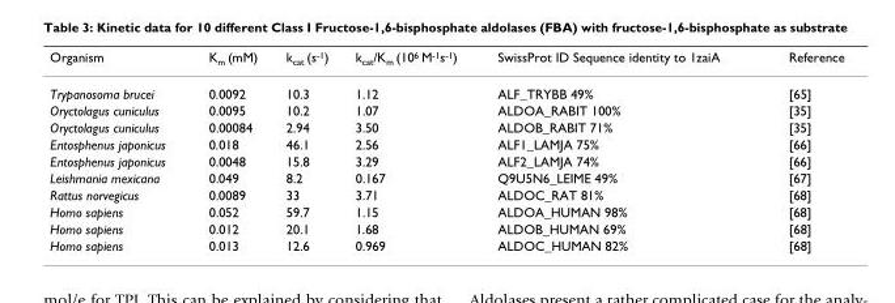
<table><thead><tr><td>Organism</td><td>K<sub>m</sub> (mM)</td><td>k<sub>cat</sub> (s<sup>-1</sup>)</td><td>k<sub>cat</sub>/K<sub>m</sub> (10<sup>6</sup> M<sup>-1</sup>s<sup>-1</sup>)</td><td>SwissProt ID Sequence identity to 1zaiA</td><td>Reference</td></tr></thead><tbody><tr><td>Trypanosoma brucei</td><td>0.0092</td><td>10.3</td><td>1.12</td><td>ALF_TRYBB 49%</td><td>[65]</td></tr><tr><td>Oryctolagus cuniculus</td><td>0.0095</td><td>10.2</td><td>1.07</td><td>ALDOA_RABIT 100%</td><td>[35]</td></tr><tr><td>Oryctolagus cuniculus</td><td>0.00084</td><td>2.94</td><td>3.50</td><td>ALDOB_RABIT 71%</td><td>[35]</td></tr><tr><td>Entosphenus japonicus</td><td>0.018</td><td>46.1</td><td>2.56</td><td>ALF1_LAMJA 75%</td><td>[66]</td></tr><tr><td>Entosphenus japonicus</td><td>0.0048</td><td>15.8</td><td>3.29</td><td>ALF2_LAMJA 74%</td><td>[66]</td></tr><tr><td>Leishmania mexicana</td><td>0.049</td><td>8.2</td><td>0.167</td><td>Q9U5N6_LEIME 49%</td><td>[67]</td></tr><tr><td>Rattus norvegicus</td><td>0.0089</td><td>33</td><td>3.71</td><td>ALDOC_RAT 81%</td><td>[68]</td></tr><tr><td>Homo sapiens</td><td>0.052</td><td>59.7</td><td>1.15</td><td>ALDOA_HUMAN 98%</td><td>[68]</td></tr><tr><td>Homo sapiens</td><td>0.012</td><td>20.1</td><td>1.68</td><td>ALDOB_HUMAN 69%</td><td>[68]</td></tr><tr><td>Homo sapiens</td><td>0.013</td><td>12.6</td><td>0.969</td><td>ALDOC_HUMAN 82%</td><td>[68]</td></tr></tbody></table>